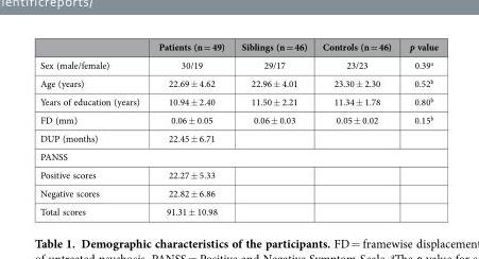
<table><thead><tr><td></td><td>Patients (n = 49)</td><td>Siblings (n = 46)</td><td>Controls (n = 46)</td><td>p value</td></tr></thead><tbody><tr><td>Sex (male/female)</td><td>30/19</td><td>29/17</td><td>23/23</td><td>0.39<sup>a</sup></td></tr><tr><td>Age (years)</td><td>22.69 ± 4.62</td><td>22.96 ± 4.01</td><td>23.30 ± 2.30</td><td>0.52<sup>b</sup></td></tr><tr><td>Years of education (years)</td><td>10.94 ± 2.40</td><td>11.50 ± 2.21</td><td>11.34 ± 1.78</td><td>0.80<sup>b</sup></td></tr><tr><td>FD (mm)</td><td>0.06 ± 0.05</td><td>0.06 ± 0.03</td><td>0.05 ± 0.02</td><td>0.15<sup>b</sup></td></tr><tr><td>DUP (months)</td><td>22.45 ± 6.71</td><td></td><td></td><td></td></tr><tr><td colspan="5">PANSS</td></tr><tr><td>Positive scores</td><td>22.27 ± 5.33</td><td></td><td></td><td></td></tr><tr><td>Negative scores</td><td>22.82 ± 6.86</td><td></td><td></td><td></td></tr><tr><td>Total scores</td><td>91.31 ± 10.98</td><td></td><td></td><td></td></tr></tbody></table>